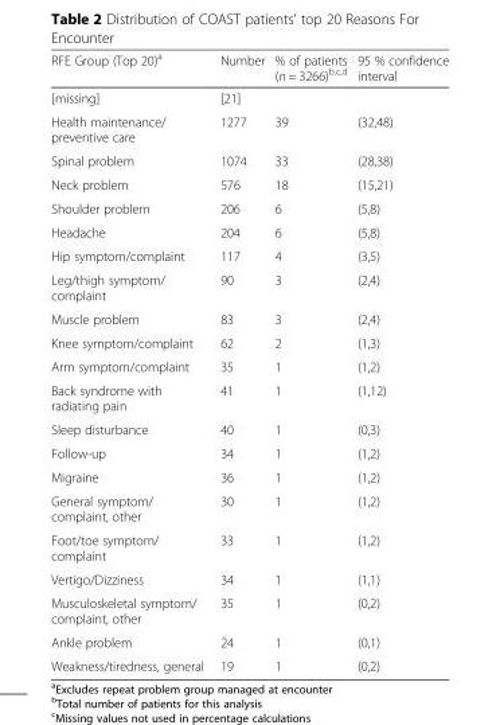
<table><thead><tr><td>RFE Group (Top 20)<sup>a</sup></td><td>Number</td><td>% of patients (n = 3266)<sup>b,c,d</sup></td><td>95 % confidence interval</td></tr></thead><tbody><tr><td>[missing]</td><td>[21]</td><td></td><td></td></tr><tr><td>Health maintenance/ preventive care</td><td>1277</td><td>39</td><td>(32,48)</td></tr><tr><td>Spinal problem</td><td>1074</td><td>33</td><td>(28,38)</td></tr><tr><td>Neck problem</td><td>576</td><td>18</td><td>(15,21)</td></tr><tr><td>Shoulder problem</td><td>206</td><td>6</td><td>(5,8)</td></tr><tr><td>Headache</td><td>204</td><td>6</td><td>(5,8)</td></tr><tr><td>Hip symptom/complaint</td><td>117</td><td>4</td><td>(3,5)</td></tr><tr><td>Leg/thigh symptom/ complaint</td><td>90</td><td>3</td><td>(2,4)</td></tr><tr><td>Muscle problem</td><td>83</td><td>3</td><td>(2,4)</td></tr><tr><td>Knee symptom/complaint</td><td>62</td><td>2</td><td>(1,3)</td></tr><tr><td>Arm symptom/complaint</td><td>35</td><td>1</td><td>(1,2)</td></tr><tr><td>Back syndrome with radiating pain</td><td>41</td><td>1</td><td>(1,12)</td></tr><tr><td>Sleep disturbance</td><td>40</td><td>1</td><td>(0,3)</td></tr><tr><td>Follow-up</td><td>34</td><td>1</td><td>(1,2)</td></tr><tr><td>Migraine</td><td>36</td><td>1</td><td>(1,2)</td></tr><tr><td>General symptom/ complaint, other</td><td>30</td><td>1</td><td>(1,2)</td></tr><tr><td>Foot/toe symptom/ complaint</td><td>33</td><td>1</td><td>(1,2)</td></tr><tr><td>Vertigo/Dizziness</td><td>34</td><td>1</td><td>(1,1)</td></tr><tr><td>Musculoskeletal symptom/ complaint, other</td><td>35</td><td>1</td><td>(0,2)</td></tr><tr><td>Ankle problem</td><td>24</td><td>1</td><td>(0,1)</td></tr><tr><td>Weakness/tiredness, general</td><td>19</td><td>1</td><td>(0,2)</td></tr></tbody></table>